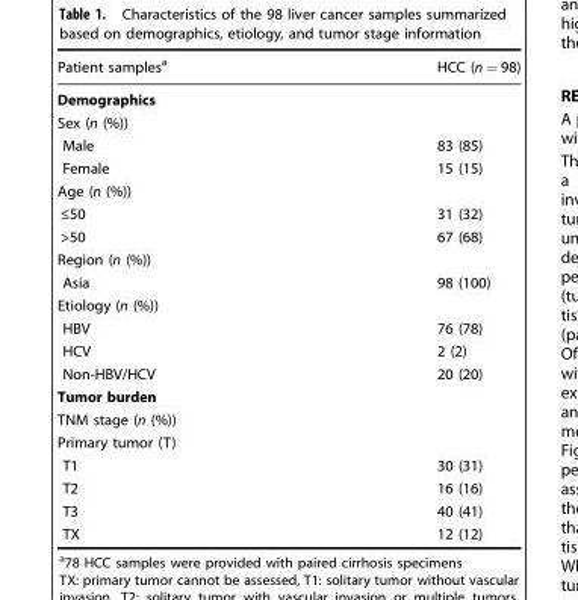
<table><thead><tr><td>Patient samples<sup>a</sup></td><td>HCC (n = 98)</td></tr></thead><tbody><tr><td colspan="2">Demographics</td></tr><tr><td colspan="2">Sex (n (%))</td></tr><tr><td>Male</td><td>83 (85)</td></tr><tr><td>Female</td><td>15 (15)</td></tr><tr><td colspan="2">Age (n (%))</td></tr><tr><td>≤50</td><td>31 (32)</td></tr><tr><td>&gt;50</td><td>67 (68)</td></tr><tr><td colspan="2">Region (n (%))</td></tr><tr><td>Asia</td><td>98 (100)</td></tr><tr><td colspan="2">Etiology (n (%))</td></tr><tr><td>HBV</td><td>76 (78)</td></tr><tr><td>HCV</td><td>2 (2)</td></tr><tr><td>Non-HBV/HCV</td><td>20 (20)</td></tr><tr><td colspan="2">Tumor burden</td></tr><tr><td colspan="2">TNM stage (n (%))</td></tr><tr><td colspan="2">Primary tumor (T)</td></tr><tr><td>T1</td><td>30 (31)</td></tr><tr><td>T2</td><td>16 (16)</td></tr><tr><td>T3</td><td>40 (41)</td></tr><tr><td>TX</td><td>12 (12)</td></tr></tbody></table>